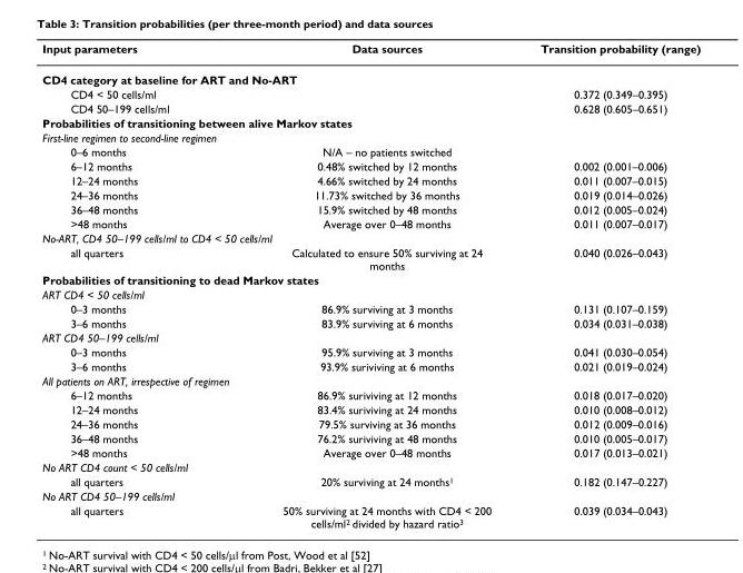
<table><thead><tr><td>Input parameters</td><td>Data sources</td><td>Transition probability (range)</td></tr></thead><tbody><tr><td colspan="3">CD4 category at baseline for ART and No-ART</td></tr><tr><td>CD4 &lt; 50 cells/ml</td><td></td><td>0.372 (0.349–0.395)</td></tr><tr><td>CD4 50–199 cells/ml</td><td></td><td>0.628 (0.605–0.651)</td></tr><tr><td colspan="3">Probabilities of transitioning between alive Markov states</td></tr><tr><td colspan="3">First-line regimen to second-line regimen</td></tr><tr><td>0–6 months</td><td>N/A – no patients switched</td><td></td></tr><tr><td>6–12 months</td><td>0.48% switched by 12 months</td><td>0.002 (0.001–0.006)</td></tr><tr><td>12–24 months</td><td>4.66% switched by 24 months</td><td>0.011 (0.007–0.015)</td></tr><tr><td>24–36 months</td><td>11.73% switched by 36 months</td><td>0.019 (0.014–0.026)</td></tr><tr><td>36–48 months</td><td>15.9% switched by 48 months</td><td>0.012 (0.005–0.024)</td></tr><tr><td>&gt;48 months</td><td>Average over 0–48 months</td><td>0.011 (0.007–0.017)</td></tr><tr><td colspan="3">No-ART, CD4 50–199 cells/ml to CD4 &lt; 50 cells/ml</td></tr><tr><td>all quarters</td><td>Calculated to ensure 50% surviving at 24 months</td><td>0.040 (0.026–0.043)</td></tr><tr><td colspan="3">Probabilities of transitioning to dead Markov states</td></tr><tr><td colspan="3">ART CD4 &lt; 50 cells/ml</td></tr><tr><td>0–3 months</td><td>86.9% surviving at 3 months</td><td>0.131 (0.107–0.159)</td></tr><tr><td>3–6 months</td><td>83.9% surviving at 6 months</td><td>0.034 (0.031–0.038)</td></tr><tr><td colspan="3">ART CD4 50–199 cells/ml</td></tr><tr><td>0–3 months</td><td>95.9% surviving at 3 months</td><td>0.041 (0.030–0.054)</td></tr><tr><td>3–6 months</td><td>93.9% suriviving at 6 months</td><td>0.021 (0.019–0.024)</td></tr><tr><td colspan="3">All patients on ART, irrespective of regimen</td></tr><tr><td>6–12 months</td><td>86.9% suriviving at 12 months</td><td>0.018 (0.017–0.020)</td></tr><tr><td>12–24 months</td><td>83.4% suriviving at 24 months</td><td>0.010 (0.008–0.012)</td></tr><tr><td>24–36 months</td><td>79.5% surviving at 36 months</td><td>0.012 (0.009–0.016)</td></tr><tr><td>36–48 months</td><td>76.2% suriviving at 48 months</td><td>0.010 (0.005–0.017)</td></tr><tr><td>&gt;48 months</td><td>Average over 0–48 months</td><td>0.017 (0.013–0.021)</td></tr><tr><td colspan="3">No ART CD4 count &lt; 50 cells/ml</td></tr><tr><td>all quarters</td><td>20% surviving at 24 months<sup>1</sup></td><td>0.182 (0.147–0.227)</td></tr><tr><td colspan="3">No ART CD4 50–199 cells/ml</td></tr><tr><td>all quarters</td><td>50% surviving at 24 months with CD4 &lt; 200 cells/ml<sup>2</sup> divided by hazard ratio<sup>3</sup></td><td>0.039 (0.034–0.043)</td></tr></tbody></table>